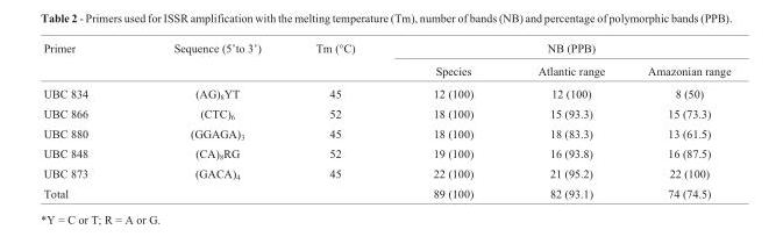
<table><thead><tr><td rowspan="2">Primer</td><td rowspan="2">Sequence (5’to 3’)</td><td rowspan="2">Tm (°C)</td><td colspan="3">NB (PPB)</td></tr><tr><td>Species</td><td>Atlantic range</td><td>Amazonian range</td></tr></thead><tbody><tr><td>UBC 834</td><td>(AG)<sub>8</sub>YT</td><td>45</td><td>12 (100)</td><td>12 (100)</td><td>8 (50)</td></tr><tr><td>UBC 866</td><td>(CTC)<sub>6</sub></td><td>52</td><td>18 (100)</td><td>15 (93.3)</td><td>15 (73.3)</td></tr><tr><td>UBC 880</td><td>(GGAGA)<sub>3</sub></td><td>45</td><td>18 (100)</td><td>18 (83.3)</td><td>13 (61.5)</td></tr><tr><td>UBC 848</td><td>(CA)<sub>8</sub>RG</td><td>52</td><td>19 (100)</td><td>16 (93.8)</td><td>16 (87.5)</td></tr><tr><td>UBC 873</td><td>(GACA)<sub>4</sub></td><td>45</td><td>22 (100)</td><td>21 (95.2)</td><td>22 (100)</td></tr><tr><td>Total</td><td></td><td></td><td>89 (100)</td><td>82 (93.1)</td><td>74 (74.5)</td></tr></tbody></table>